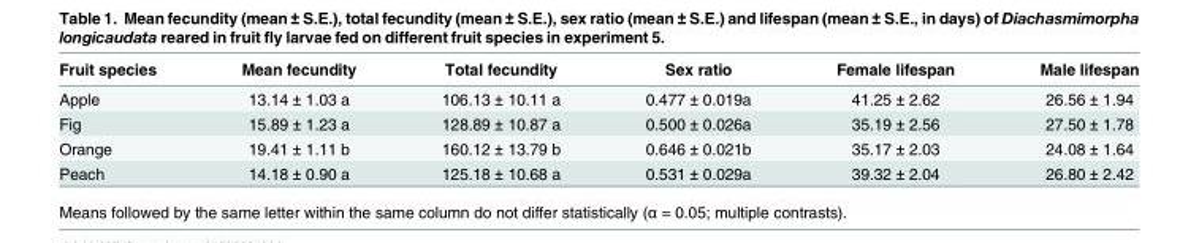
<table><thead><tr><td>Fruit species</td><td>Mean fecundity</td><td>Total fecundity</td><td>Sex ratio</td><td>Female lifespan</td><td>Male lifespan</td></tr></thead><tbody><tr><td>Apple</td><td>13.14 ± 1.03 a</td><td>106.13 ± 10.11 a</td><td>0.477 ± 0.019a</td><td>41.25 ± 2.62</td><td>26.56 ± 1.94</td></tr><tr><td>Fig</td><td>15.89 ± 1.23 a</td><td>128.89 ± 10.87 a</td><td>0.500 ± 0.026a</td><td>35.19 ± 2.56</td><td>27.50 ± 1.78</td></tr><tr><td>Orange</td><td>19.41 ± 1.11 b</td><td>160.12 ± 13.79 b</td><td>0.646 ± 0.021b</td><td>35.17 ± 2.03</td><td>24.08 ± 1.64</td></tr><tr><td>Peach</td><td>14.18 ± 0.90 a</td><td>125.18 ± 10.68 a</td><td>0.531 ± 0.029a</td><td>39.32 ± 2.04</td><td>26.80 ± 2.42</td></tr></tbody></table>